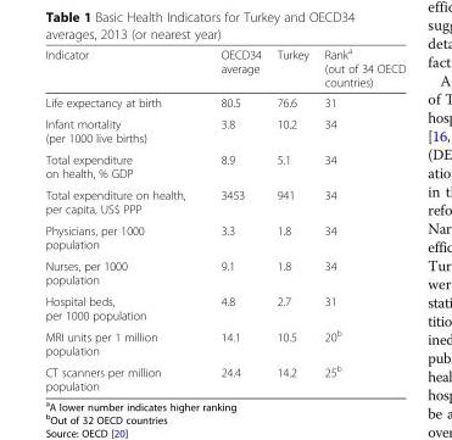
<table><thead><tr><td>Indicator</td><td>OECD34 average</td><td>Turkey</td><td>Rank<sup>a</sup> (out of 34 OECD countries)</td></tr></thead><tbody><tr><td>Life expectancy at birth</td><td>80.5</td><td>76.6</td><td>31</td></tr><tr><td>Infant mortality (per 1000 live births)</td><td>3.8</td><td>10.2</td><td>34</td></tr><tr><td>Total expenditure on health, % GDP</td><td>8.9</td><td>5.1</td><td>34</td></tr><tr><td>Total expenditure on health, per capita, US$ PPP</td><td>3453</td><td>941</td><td>34</td></tr><tr><td>Physicians, per 1000 population</td><td>3.3</td><td>1.8</td><td>34</td></tr><tr><td>Nurses, per 1000 population</td><td>9.1</td><td>1.8</td><td>34</td></tr><tr><td>Hospital beds, per 1000 population</td><td>4.8</td><td>2.7</td><td>31</td></tr><tr><td>MRI units per 1 million population</td><td>14.1</td><td>10.5</td><td>20<sup>b</sup></td></tr><tr><td>CT scanners per million population</td><td>24.4</td><td>14.2</td><td>25<sup>b</sup></td></tr></tbody></table>